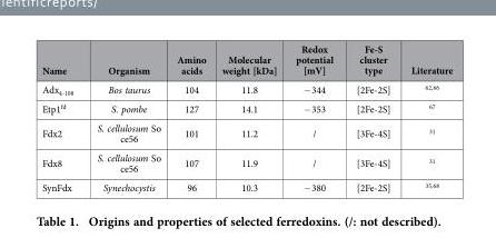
<table><thead><tr><td>Name</td><td>Organism</td><td>Amino acids</td><td>Molecular weight [kDa]</td><td>Redox potential [mV]</td><td>Fe-S cluster type</td><td>Literature</td></tr></thead><tbody><tr><td>Adx<sub>4-108</sub></td><td>Bos taurus</td><td>104</td><td>11.8</td><td>− 344</td><td>[2Fe-2S]</td><td>62,66</td></tr><tr><td>Etp1<sup>fd</sup></td><td>S. pombe</td><td>127</td><td>14.1</td><td>− 353</td><td>[2Fe-2S]</td><td>67</td></tr><tr><td>Fdx2</td><td>S. cellulosum So ce56</td><td>101</td><td>11.2</td><td>/</td><td>[3Fe-4S]</td><td>31</td></tr><tr><td>Fdx8</td><td>S. cellulosum So ce56</td><td>107</td><td>11.9</td><td>/</td><td>[3Fe-4S]</td><td>31</td></tr><tr><td>SynFdx</td><td>Synechocystis</td><td>96</td><td>10.3</td><td>− 380</td><td>[2Fe-2S]</td><td>35,68</td></tr></tbody></table>